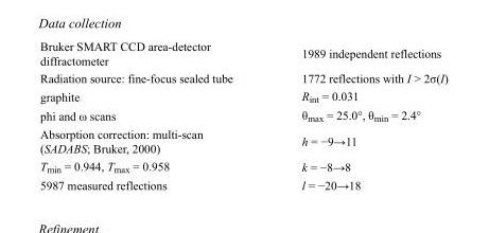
<table><tbody><tr><td>Bruker SMART CCD area-detector diffractometer</td><td>1989 independent reflections</td></tr><tr><td>Radiation source: fine-focus sealed tube</td><td>1772 reflections with I &gt; 2σ(I)</td></tr><tr><td>graphite</td><td>R<sub>int</sub> = 0.031</td></tr><tr><td>phi and ω scans</td><td>θ<sub>max</sub> = 25.0°, θ<sub>min</sub> = 2.4°</td></tr><tr><td>Absorption correction: multi-scan (SADABS; Bruker, 2000)</td><td>h = −9→11</td></tr><tr><td>T<sub>min</sub> = 0.944, T<sub>max</sub> = 0.958</td><td>k = −8→8</td></tr><tr><td>5987 measured reflections</td><td>l = −20→18</td></tr></tbody></table>